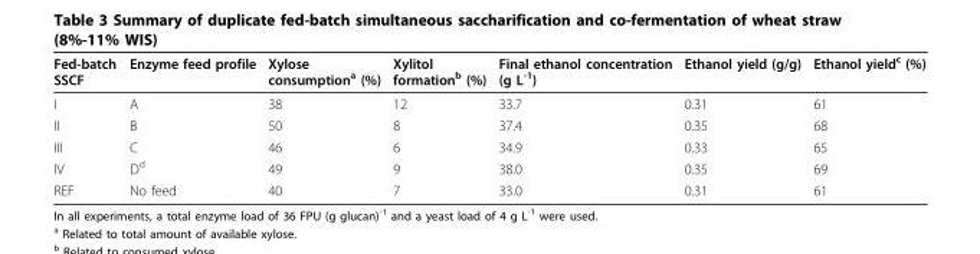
<table><thead><tr><td>Fed-batch SSCF</td><td>Enzyme feed profile</td><td>Xylose consumption<sup>a</sup> (%)</td><td>Xylitol formation<sup>b</sup> (%)</td><td>Final ethanol concentration (g L<sup>-1</sup>)</td><td>Ethanol yield (g/g)</td><td>Ethanol yield<sup>c</sup> (%)</td></tr></thead><tbody><tr><td>I</td><td>A</td><td>38</td><td>12</td><td>33.7</td><td>0.31</td><td>61</td></tr><tr><td>II</td><td>B</td><td>50</td><td>8</td><td>37.4</td><td>0.35</td><td>68</td></tr><tr><td>III</td><td>C</td><td>46</td><td>6</td><td>34.9</td><td>0.33</td><td>65</td></tr><tr><td>IV</td><td>D<sup>d</sup></td><td>49</td><td>9</td><td>38.0</td><td>0.35</td><td>69</td></tr><tr><td>REF</td><td>No feed</td><td>40</td><td>7</td><td>33.0</td><td>0.31</td><td>61</td></tr></tbody></table>